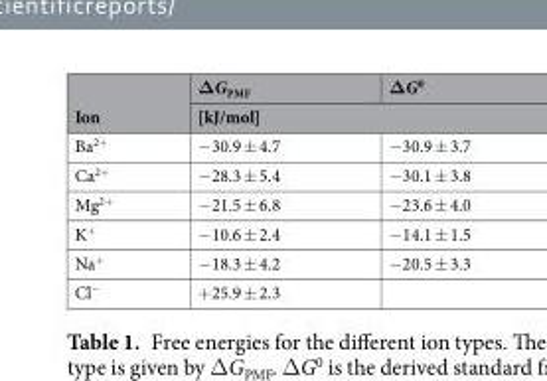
<table><thead><tr><td rowspan="2">Ion</td><td>ΔG<sub>PMF</sub></td><td>ΔG<sup>0</sup></td></tr><tr><td colspan="2">[kJ/mol]</td></tr></thead><tbody><tr><td>Ba<sup>2+</sup></td><td>−30.9 ± 4.7</td><td>−30.9 ± 3.7</td></tr><tr><td>Ca<sup>2+</sup></td><td>−28.3 ± 5.4</td><td>−30.1 ± 3.8</td></tr><tr><td>Mg<sup>2+</sup></td><td>−21.5 ± 6.8</td><td>−23.6 ± 4.0</td></tr><tr><td>K<sup>+</sup></td><td>−10.6 ± 2.4</td><td>−14.1 ± 1.5</td></tr><tr><td>Na<sup>+</sup></td><td>−18.3 ± 4.2</td><td>−20.5 ± 3.3</td></tr><tr><td>Cl<sup>−</sup></td><td>+25.9 ± 2.3</td><td></td></tr></tbody></table>